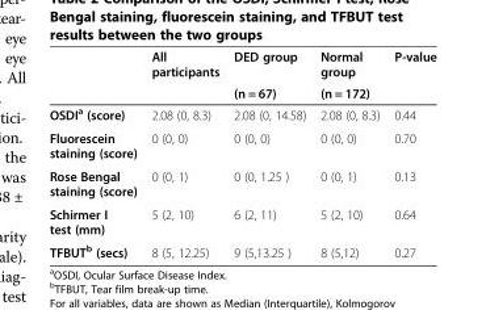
<table><thead><tr><td rowspan="2"></td><td rowspan="2">All participants</td><td rowspan="2">DED group (n = 67)</td><td rowspan="2">Normal group (n = 172)</td><td rowspan="2">P-value</td></tr><tr></tr></thead><tbody><tr><td>OSDI<sup>a</sup> (score)</td><td>2.08 (0, 8.3)</td><td>2.08 (0, 14.58)</td><td>2.08 (0, 8.3)</td><td>0.44</td></tr><tr><td>Fluorescein staining (score)</td><td>0 (0, 0)</td><td>0 (0, 0)</td><td>0 (0, 0)</td><td>0.70</td></tr><tr><td>Rose Bengal staining (score)</td><td>0 (0, 1)</td><td>0 (0, 1.25 )</td><td>0 (0, 1)</td><td>0.13</td></tr><tr><td>Schirmer I test (mm)</td><td>5 (2, 10)</td><td>6 (2, 11)</td><td>5 (2, 10)</td><td>0.64</td></tr><tr><td>TFBUT<sup>b</sup> (secs)</td><td>8 (5, 12.25)</td><td>9 (5,13.25 )</td><td>8 (5,12)</td><td>0.27</td></tr></tbody></table>